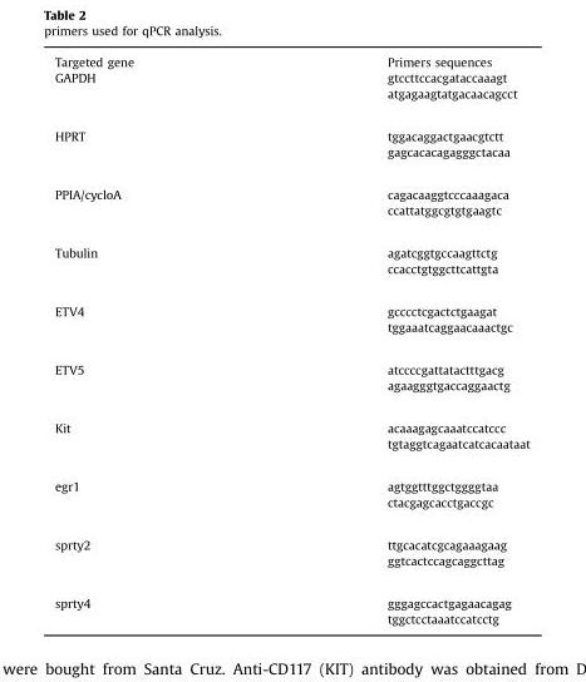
<table><tbody><tr><td>Targeted gene</td><td>Primers sequences</td></tr><tr><td rowspan="2">GAPDH</td><td>gtccttccacgataccaaagt</td></tr><tr><td>atgagaagtatgacaacagcct</td></tr><tr><td rowspan="2">HPRT</td><td>tggacaggactgaacgtctt</td></tr><tr><td>gagcacacagagggctacaa</td></tr><tr><td rowspan="2">PPIA/cycloA</td><td>cagacaaggtcccaaagaca</td></tr><tr><td>ccattatggcgtgtgaagtc</td></tr><tr><td rowspan="2">Tubulin</td><td>agatcggtgccaagttctg</td></tr><tr><td>ccacctgtggcttcattgta</td></tr><tr><td rowspan="2">ETV4</td><td>gcccctcgactctgaagat</td></tr><tr><td>tggaaatcaggaacaaactgc</td></tr><tr><td rowspan="2">ETV5</td><td>atccccgattatactttgacg</td></tr><tr><td>agaagggtgaccaggaactg</td></tr><tr><td rowspan="2">Kit</td><td>acaaagagcaaatccatccc</td></tr><tr><td>tgtaggtcagaatcatcacaataat</td></tr><tr><td rowspan="2">egr1</td><td>agtggtttggctggggtaa</td></tr><tr><td>ctacgagcacctgaccgc</td></tr><tr><td rowspan="2">sprty2</td><td>ttgcacatcgcagaaagaag</td></tr><tr><td>ggtcactccagcaggcttag</td></tr><tr><td rowspan="2">sprty4</td><td>gggagccactgagaacagag</td></tr><tr><td>tggctcctaaatccatcctg</td></tr></tbody></table>